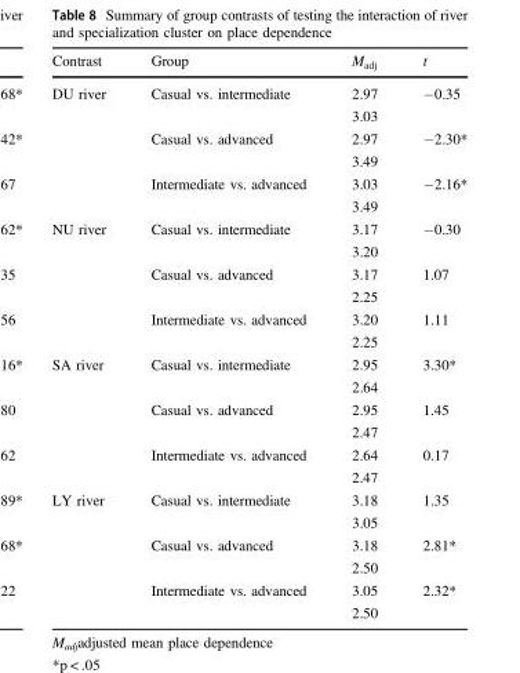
<table><thead><tr><td>Contrast</td><td>Group</td><td>M<sub>adj</sub></td><td>t</td></tr></thead><tbody><tr><td rowspan="6">DU river</td><td>Casual vs. intermediate</td><td>2.97</td><td>−0.35</td></tr><tr><td></td><td>3.03</td><td></td></tr><tr><td>Casual vs. advanced</td><td>2.97</td><td>−2.30*</td></tr><tr><td></td><td>3.49</td><td></td></tr><tr><td>Intermediate vs. advanced</td><td>3.03</td><td>−2.16*</td></tr><tr><td></td><td>3.49</td><td></td></tr><tr><td rowspan="6">NU river</td><td>Casual vs. intermediate</td><td>3.17</td><td>−0.30</td></tr><tr><td></td><td>3.20</td><td></td></tr><tr><td>Casual vs. advanced</td><td>3.17</td><td>1.07</td></tr><tr><td></td><td>2.25</td><td></td></tr><tr><td>Intermediate vs. advanced</td><td>3.20</td><td>1.11</td></tr><tr><td></td><td>2.25</td><td></td></tr><tr><td rowspan="6">SA river</td><td>Casual vs. intermediate</td><td>2.95</td><td>3.30*</td></tr><tr><td></td><td>2.64</td><td></td></tr><tr><td>Casual vs. advanced</td><td>2.95</td><td>1.45</td></tr><tr><td></td><td>2.47</td><td></td></tr><tr><td>Intermediate vs. advanced</td><td>2.64</td><td>0.17</td></tr><tr><td></td><td>2.47</td><td></td></tr><tr><td rowspan="6">LY river</td><td>Casual vs. intermediate</td><td>3.18</td><td>1.35</td></tr><tr><td></td><td>3.05</td><td></td></tr><tr><td>Casual vs. advanced</td><td>3.18</td><td>2.81*</td></tr><tr><td></td><td>2.50</td><td></td></tr><tr><td>Intermediate vs. advanced</td><td>3.05</td><td>2.32*</td></tr><tr><td></td><td>2.50</td><td></td></tr></tbody></table>